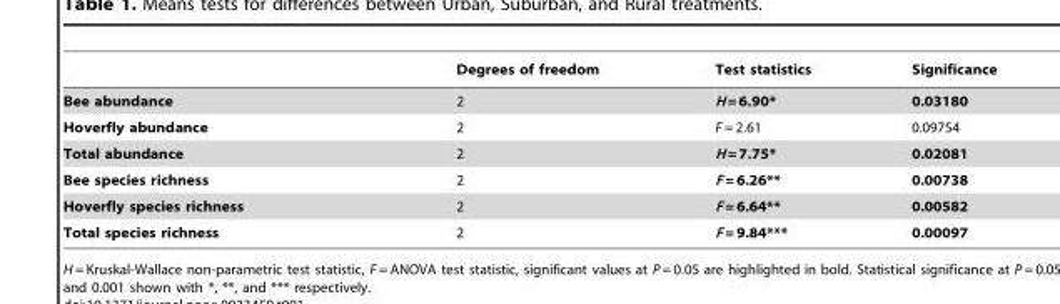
<table><thead><tr><td></td><td>Degrees of freedom</td><td>Test statistics</td><td>Significance</td></tr></thead><tbody><tr><td>Bee abundance</td><td>2</td><td>H = 6.90*</td><td>0.03180</td></tr><tr><td>Hoverfly abundance</td><td>2</td><td>F = 2.61</td><td>0.09754</td></tr><tr><td>Total abundance</td><td>2</td><td>H = 7.75*</td><td>0.02081</td></tr><tr><td>Bee species richness</td><td>2</td><td>F = 6.26**</td><td>0.00738</td></tr><tr><td>Hoverfly species richness</td><td>2</td><td>F = 6.64**</td><td>0.00582</td></tr><tr><td>Total species richness</td><td>2</td><td>F = 9.84***</td><td>0.00097</td></tr></tbody></table>